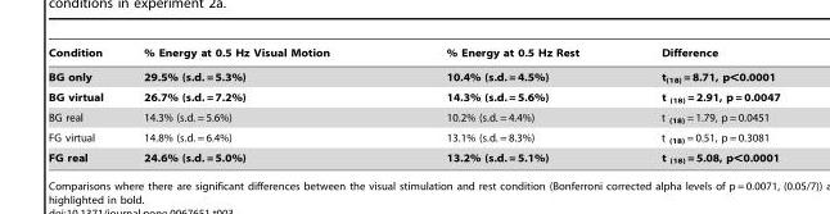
<table><thead><tr><td>Condition</td><td>% Energy at 0.5 Hz Visual Motion</td><td>% Energy at 0.5 Hz Rest</td><td>Difference</td></tr></thead><tbody><tr><td>BG only</td><td>29.5% (s.d. = 5.3%)</td><td>10.4% (s.d. = 4.5%)</td><td>t<sub>(18)</sub> = 8.71, p&lt;0.0001</td></tr><tr><td>BG virtual</td><td>26.7% (s.d. = 7.2%)</td><td>14.3% (s.d. = 5.6%)</td><td>t <sub>(18)</sub> = 2.91, p = 0.0047</td></tr><tr><td>BG real</td><td>14.3% (s.d. = 5.6%)</td><td>10.2% (s.d. = 4.4%)</td><td>t <sub>(18)</sub> = 1.79, p = 0.0451</td></tr><tr><td>FG virtual</td><td>14.8% (s.d. = 6.4%)</td><td>13.1% (s.d. = 8.3%)</td><td>t <sub>(18)</sub> = 0.51, p = 0.3081</td></tr><tr><td>FG real</td><td>24.6% (s.d. = 5.0%)</td><td>13.2% (s.d. = 5.1%)</td><td>t <sub>(18)</sub> = 5.08, p&lt;0.0001</td></tr></tbody></table>